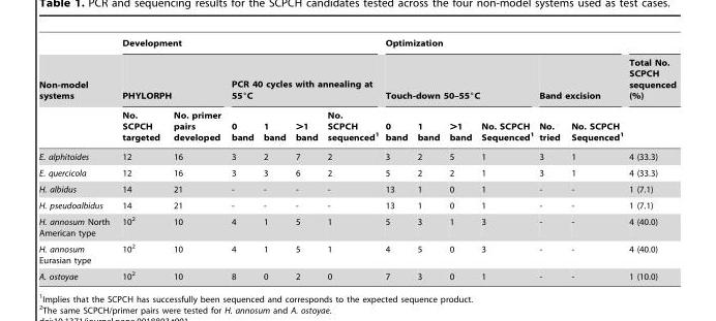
<table><thead><tr><td rowspan="3">Non-model systems</td><td colspan="6">Development</td><td colspan="6">Optimization</td><td rowspan="3">Total No. SCPCH sequenced (%)</td></tr><tr><td colspan="2">PHYLORPH</td><td colspan="4">PCR 40 cycles with annealing at 55°C</td><td colspan="4">Touch-down 50–55°C</td><td colspan="2">Band excision</td></tr><tr><td>No. SCPCH targeted</td><td>No. primer pairs developed</td><td>0 band</td><td>1 band</td><td>&gt;1 band</td><td>No. SCPCH sequenced<sup>1</sup></td><td>0 band</td><td>1 band</td><td>&gt;1 band</td><td>No. SCPCH Sequenced<sup>1</sup></td><td>No. tried</td><td>No. SCPCH Sequenced<sup>1</sup></td></tr></thead><tbody><tr><td>E. alphitoides</td><td>12</td><td>16</td><td>3</td><td>2</td><td>7</td><td>2</td><td>3</td><td>2</td><td>5</td><td>1</td><td>3</td><td>1</td><td>4 (33.3)</td></tr><tr><td>E. quercicola</td><td>12</td><td>16</td><td>3</td><td>3</td><td>6</td><td>2</td><td>5</td><td>2</td><td>2</td><td>1</td><td>3</td><td>1</td><td>4 (33.3)</td></tr><tr><td>H. albidus</td><td>14</td><td>21</td><td>-</td><td>-</td><td>-</td><td>-</td><td>13</td><td>1</td><td>0</td><td>1</td><td>-</td><td>-</td><td>1 (7.1)</td></tr><tr><td>H. pseudoalbidus</td><td>14</td><td>21</td><td>-</td><td>-</td><td>-</td><td>-</td><td>13</td><td>1</td><td>0</td><td>1</td><td>-</td><td>-</td><td>1 (7.1)</td></tr><tr><td>H. annosum North American type</td><td>10<sup>2</sup></td><td>10</td><td>4</td><td>1</td><td>5</td><td>1</td><td>5</td><td>3</td><td>1</td><td>3</td><td>-</td><td>-</td><td>4 (40.0)</td></tr><tr><td>H. annosum Eurasian type</td><td>10<sup>2</sup></td><td>10</td><td>4</td><td>1</td><td>5</td><td>1</td><td>4</td><td>5</td><td>0</td><td>3</td><td>-</td><td>-</td><td>4 (40.0)</td></tr><tr><td>A. ostoyae</td><td>10<sup>2</sup></td><td>10</td><td>8</td><td>0</td><td>2</td><td>0</td><td>7</td><td>3</td><td>0</td><td>1</td><td>-</td><td>-</td><td>1 (10.0)</td></tr></tbody></table>